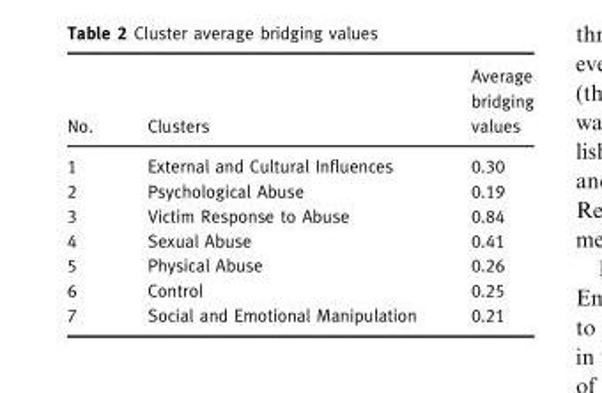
<table><thead><tr><td>No.</td><td>Clusters</td><td>Average bridging values</td></tr></thead><tbody><tr><td>1</td><td>External and Cultural Influences</td><td>0.30</td></tr><tr><td>2</td><td>Psychological Abuse</td><td>0.19</td></tr><tr><td>3</td><td>Victim Response to Abuse</td><td>0.84</td></tr><tr><td>4</td><td>Sexual Abuse</td><td>0.41</td></tr><tr><td>5</td><td>Physical Abuse</td><td>0.26</td></tr><tr><td>6</td><td>Control</td><td>0.25</td></tr><tr><td>7</td><td>Social and Emotional Manipulation</td><td>0.21</td></tr></tbody></table>